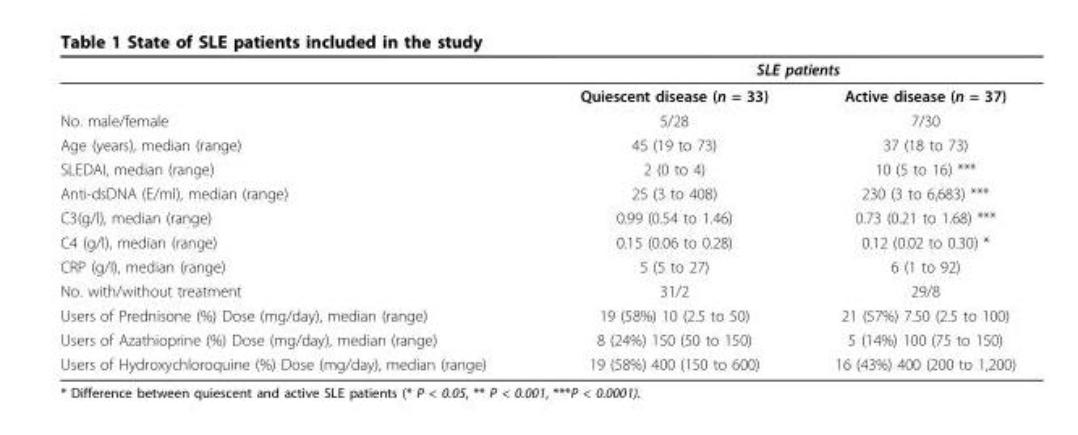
<table><thead><tr><td rowspan="2"></td><td colspan="2">SLE patients</td></tr><tr><td>Quiescent disease (n = 33)</td><td>Active disease (n = 37)</td></tr></thead><tbody><tr><td>No. male/female</td><td>5/28</td><td>7/30</td></tr><tr><td>Age (years), median (range)</td><td>45 (19 to 73)</td><td>37 (18 to 73)</td></tr><tr><td>SLEDAI, median (range)</td><td>2 (0 to 4)</td><td>10 (5 to 16) ***</td></tr><tr><td>Anti-dsDNA (E/ml), median (range)</td><td>25 (3 to 408)</td><td>230 (3 to 6,683) ***</td></tr><tr><td>C3(g/l), median (range)</td><td>0.99 (0.54 to 1.46)</td><td>0.73 (0.21 to 1.68) ***</td></tr><tr><td>C4 (g/l), median (range)</td><td>0.15 (0.06 to 0.28)</td><td>0.12 (0.02 to 0.30) *</td></tr><tr><td>CRP (g/I), median (range)</td><td>5 (5 to 27)</td><td>6 (1 to 92)</td></tr><tr><td>No. with/without treatment</td><td>31/2</td><td>29/8</td></tr><tr><td>Users of Prednisone (%) Dose (mg/day), median (range)</td><td>19 (58%) 10 (2.5 to 50)</td><td>21 (57%) 7.50 (2.5 to 100)</td></tr><tr><td>Users of Azathioprine (%) Dose (mg/day), median (range)</td><td>8 (24%) 150 (50 to 150)</td><td>5 (14%) 100 (75 to 150)</td></tr><tr><td>Users of Hydroxychloroquine (%) Dose (mg/day), median (range)</td><td>19 (58%) 400 (150 to 600)</td><td>16 (43%) 400 (200 to 1,200)</td></tr></tbody></table>